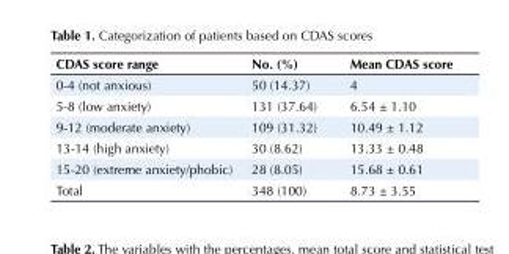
<table><tbody><tr><td>CDAS score range</td><td>No. (%)</td><td>Mean CDAS score</td></tr><tr><td>0-4 (not anxious)</td><td>50 (14.37)</td><td>4</td></tr><tr><td>5-8 (low anxiety)</td><td>131 (37.64)</td><td>6.54 ± 1.10</td></tr><tr><td>9-12 (moderate anxiety)</td><td>109 (31.32)</td><td>10.49 ± 1.12</td></tr><tr><td>13-14 (high anxiety)</td><td>30 (8.62)</td><td>13.33 ± 0.48</td></tr><tr><td>15-20 (extreme anxiety/phobic)</td><td>28 (8.05)</td><td>15.68 ± 0.61</td></tr><tr><td>Total</td><td>348 (100)</td><td>8.73 ± 3.55</td></tr></tbody></table>